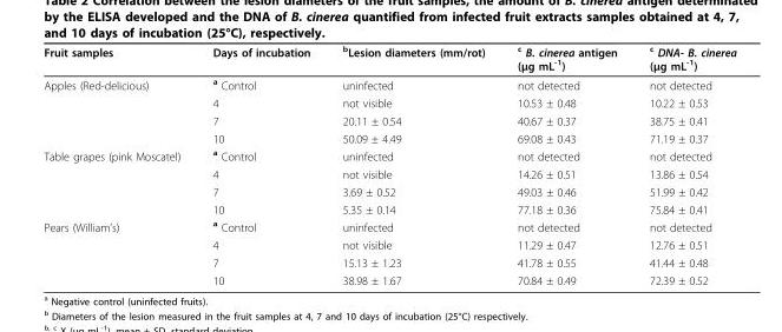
<table><thead><tr><td>Fruit samples</td><td>Days of incubation</td><td><sup>b</sup>Lesion diameters (mm/rot)</td><td><sup>c</sup> B. cinerea antigen (μg mL<sup>-1</sup>)</td><td><sup>c</sup> DNA- B. cinerea (μg mL<sup>-1</sup>)</td></tr></thead><tbody><tr><td rowspan="4">Apples (Red-delicious)</td><td><sup>a</sup> Control</td><td>uninfected</td><td>not detected</td><td>not detected</td></tr><tr><td>4</td><td>not visible</td><td>10.53 ± 0.48</td><td>10.22 ± 0.53</td></tr><tr><td>7</td><td>20.11 ± 0.54</td><td>40.67 ± 0.37</td><td>38.75 ± 0.41</td></tr><tr><td>10</td><td>50.09 ± 4.49</td><td>69.08 ± 0.43</td><td>71.19 ± 0.37</td></tr><tr><td rowspan="4">Table grapes (pink Moscatel)</td><td><sup>a</sup> Control</td><td>uninfected</td><td>not detected</td><td>not detected</td></tr><tr><td>4</td><td>not visible</td><td>14.26 ± 0.51</td><td>13.86 ± 0.54</td></tr><tr><td>7</td><td>3.69 ± 0.52</td><td>49.03 ± 0.46</td><td>51.99 ± 0.42</td></tr><tr><td>10</td><td>5.35 ± 0.14</td><td>77.18 ± 0.36</td><td>75.84 ± 0.41</td></tr><tr><td rowspan="4">Pears (William’s)</td><td><sup>a</sup> Control</td><td>uninfected</td><td>not detected</td><td>not detected</td></tr><tr><td>4</td><td>not visible</td><td>11.29 ± 0.47</td><td>12.76 ± 0.51</td></tr><tr><td>7</td><td>15.13 ± 1.23</td><td>41.78 ± 0.55</td><td>41.44 ± 0.48</td></tr><tr><td>10</td><td>38.98 ± 1.67</td><td>70.84 ± 0.49</td><td>72.39 ± 0.52</td></tr></tbody></table>